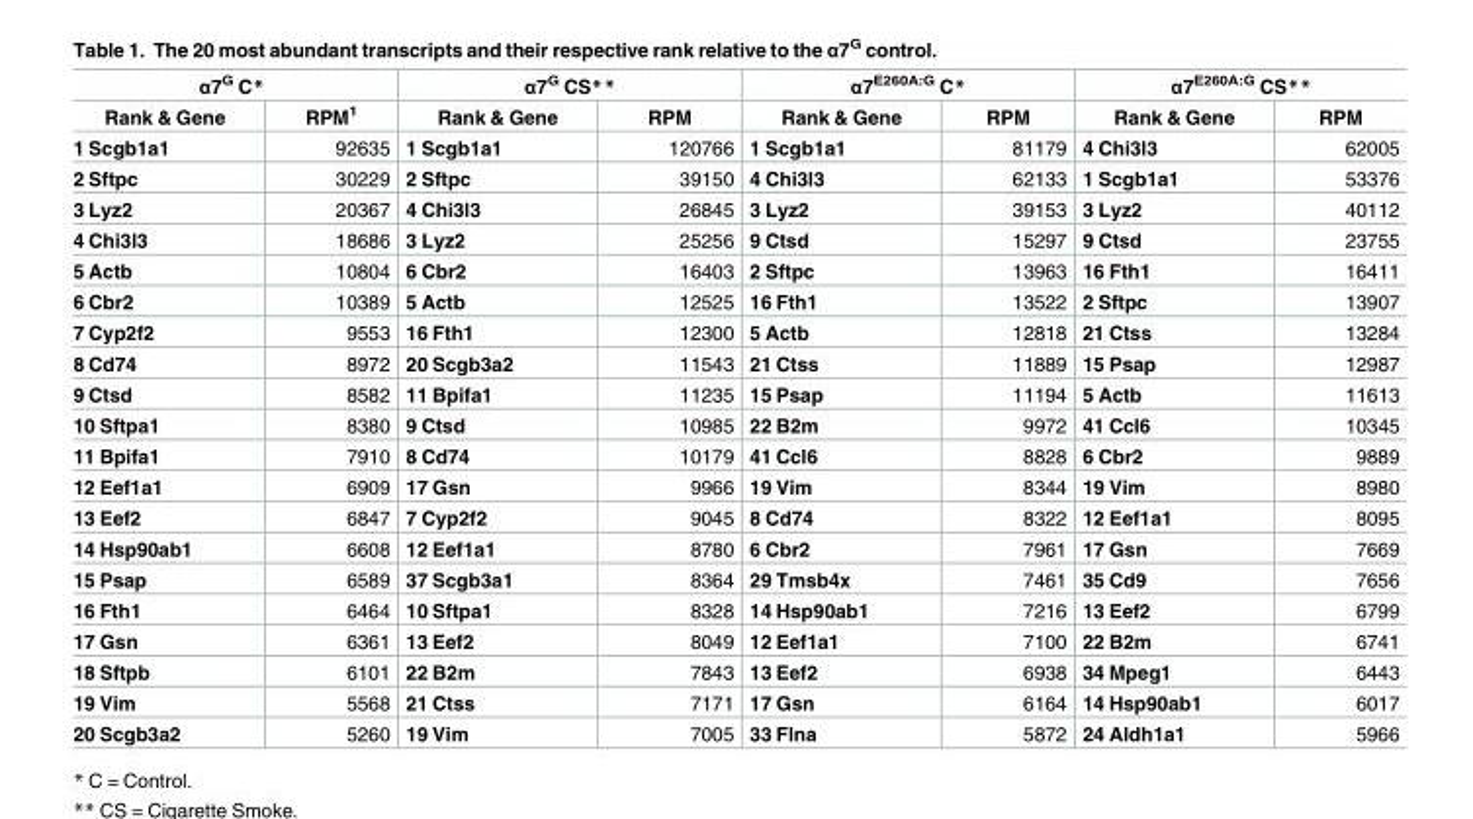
<table><thead><tr><td colspan="2">α7<sup>G</sup> C*</td><td colspan="2">α7<sup>G</sup> CS**</td><td colspan="2">α7<sup>E260A:G</sup> C*</td><td colspan="2">α7<sup>E260A:G</sup> CS**</td></tr><tr><td>Rank &amp; Gene</td><td>RPM<sup>1</sup></td><td>Rank &amp; Gene</td><td>RPM</td><td>Rank &amp; Gene</td><td>RPM</td><td>Rank &amp; Gene</td><td>RPM</td></tr></thead><tbody><tr><td>1 Scgb1a1</td><td>92635</td><td>1 Scgb1a1</td><td>120766</td><td>1 Scgb1a1</td><td>81179</td><td>4 Chi3l3</td><td>62005</td></tr><tr><td>2 Sftpc</td><td>30229</td><td>2 Sftpc</td><td>39150</td><td>4 Chi3l3</td><td>62133</td><td>1 Scgb1a1</td><td>53376</td></tr><tr><td>3 Lyz2</td><td>20367</td><td>4 Chi3l3</td><td>26845</td><td>3 Lyz2</td><td>39153</td><td>3 Lyz2</td><td>40112</td></tr><tr><td>4 Chi3l3</td><td>18686</td><td>3 Lyz2</td><td>25256</td><td>9 Ctsd</td><td>15297</td><td>9 Ctsd</td><td>23755</td></tr><tr><td>5 Actb</td><td>10804</td><td>6 Cbr2</td><td>16403</td><td>2 Sftpc</td><td>13963</td><td>16 Fth1</td><td>16411</td></tr><tr><td>6 Cbr2</td><td>10389</td><td>5 Actb</td><td>12525</td><td>16 Fth1</td><td>13522</td><td>2 Sftpc</td><td>13907</td></tr><tr><td>7 Cyp2f2</td><td>9553</td><td>16 Fth1</td><td>12300</td><td>5 Actb</td><td>12818</td><td>21 Ctss</td><td>13284</td></tr><tr><td>8 Cd74</td><td>8972</td><td>20 Scgb3a2</td><td>11543</td><td>21 Ctss</td><td>11889</td><td>15 Psap</td><td>12987</td></tr><tr><td>9 Ctsd</td><td>8582</td><td>11 Bpifa1</td><td>11235</td><td>15 Psap</td><td>11194</td><td>5 Actb</td><td>11613</td></tr><tr><td>10 Sftpa1</td><td>8380</td><td>9 Ctsd</td><td>10985</td><td>22 B2m</td><td>9972</td><td>41 Ccl6</td><td>10345</td></tr><tr><td>11 Bpifa1</td><td>7910</td><td>8 Cd74</td><td>10179</td><td>41 Ccl6</td><td>8828</td><td>6 Cbr2</td><td>9889</td></tr><tr><td>12 Eef1a1</td><td>6909</td><td>17 Gsn</td><td>9966</td><td>19 Vim</td><td>8344</td><td>19 Vim</td><td>8980</td></tr><tr><td>13 Eef2</td><td>6847</td><td>7 Cyp2f2</td><td>9045</td><td>8 Cd74</td><td>8322</td><td>12 Eef1a1</td><td>8095</td></tr><tr><td>14 Hsp90ab1</td><td>6608</td><td>12 Eef1a1</td><td>8780</td><td>6 Cbr2</td><td>7961</td><td>17 Gsn</td><td>7669</td></tr><tr><td>15 Psap</td><td>6589</td><td>37 Scgb3a1</td><td>8364</td><td>29 Tmsb4x</td><td>7461</td><td>35 Cd9</td><td>7656</td></tr><tr><td>16 Fth1</td><td>6464</td><td>10 Sftpa1</td><td>8328</td><td>14 Hsp90ab1</td><td>7216</td><td>13 Eef2</td><td>6799</td></tr><tr><td>17 Gsn</td><td>6361</td><td>13 Eef2</td><td>8049</td><td>12 Eef1a1</td><td>7100</td><td>22 B2m</td><td>6741</td></tr><tr><td>18 Sftpb</td><td>6101</td><td>22 B2m</td><td>7843</td><td>13 Eef2</td><td>6938</td><td>34 Mpeg1</td><td>6443</td></tr><tr><td>19 Vim</td><td>5568</td><td>21 Ctss</td><td>7171</td><td>17 Gsn</td><td>6164</td><td>14 Hsp90ab1</td><td>6017</td></tr><tr><td>20 Scgb3a2</td><td>5260</td><td>19 Vim</td><td>7005</td><td>33 Flna</td><td>5872</td><td>24 Aldh1a1</td><td>5966</td></tr></tbody></table>